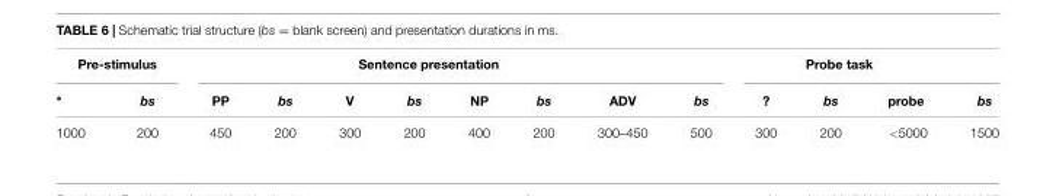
<table><thead><tr><td colspan="2">Pre-stimulus</td><td colspan="8">Sentence presentation</td><td colspan="4">Probe task</td></tr><tr><td>∗</td><td>bs</td><td>PP</td><td>bs</td><td>V</td><td>bs</td><td>NP</td><td>bs</td><td>ADV</td><td>bs</td><td>?</td><td>bs</td><td>probe</td><td>bs</td></tr></thead><tbody><tr><td>1000</td><td>200</td><td>450</td><td>200</td><td>300</td><td>200</td><td>400</td><td>200</td><td>300–450</td><td>500</td><td>300</td><td>200</td><td>&lt;5000</td><td>1500</td></tr></tbody></table>